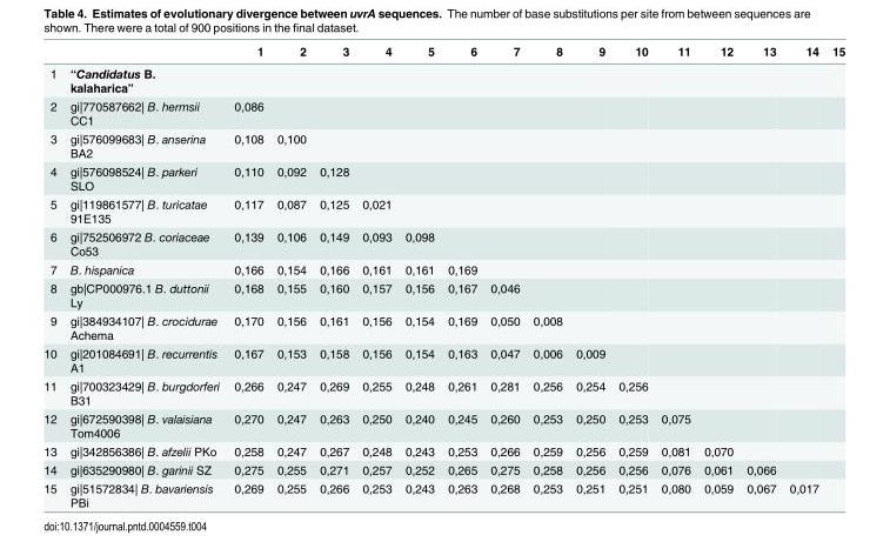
<table><thead><tr><td></td><td></td><td>1</td><td>2</td><td>3</td><td>4</td><td>5</td><td>6</td><td>7</td><td>8</td><td>9</td><td>10</td><td>11</td><td>12</td><td>13</td><td>14</td><td>15</td></tr></thead><tbody><tr><td>1</td><td>“Candidatus B. kalaharica”</td><td></td><td></td><td></td><td></td><td></td><td></td><td></td><td></td><td></td><td></td><td></td><td></td><td></td><td></td><td></td></tr><tr><td>2</td><td>gi|770587662| B. hermsii CC1</td><td>0,086</td><td></td><td></td><td></td><td></td><td></td><td></td><td></td><td></td><td></td><td></td><td></td><td></td><td></td><td></td></tr><tr><td>3</td><td>gi|576099683| B. anserina BA2</td><td>0,108</td><td>0,100</td><td></td><td></td><td></td><td></td><td></td><td></td><td></td><td></td><td></td><td></td><td></td><td></td><td></td></tr><tr><td>4</td><td>gi|576098524| B. parkeri SLO</td><td>0,110</td><td>0,092</td><td>0,128</td><td></td><td></td><td></td><td></td><td></td><td></td><td></td><td></td><td></td><td></td><td></td><td></td></tr><tr><td>5</td><td>gi|119861577| B. turicatae 91E135</td><td>0,117</td><td>0,087</td><td>0,125</td><td>0,021</td><td></td><td></td><td></td><td></td><td></td><td></td><td></td><td></td><td></td><td></td><td></td></tr><tr><td>6</td><td>gi|752506972 B. coriaceae Co53</td><td>0,139</td><td>0,106</td><td>0,149</td><td>0,093</td><td>0,098</td><td></td><td></td><td></td><td></td><td></td><td></td><td></td><td></td><td></td><td></td></tr><tr><td>7</td><td>B. hispanica</td><td>0,166</td><td>0,154</td><td>0,166</td><td>0,161</td><td>0,161</td><td>0,169</td><td></td><td></td><td></td><td></td><td></td><td></td><td></td><td></td><td></td></tr><tr><td>8</td><td>gb|CP000976.1 B. duttonii Ly</td><td>0,168</td><td>0,155</td><td>0,160</td><td>0,157</td><td>0,156</td><td>0,167</td><td>0,046</td><td></td><td></td><td></td><td></td><td></td><td></td><td></td><td></td></tr><tr><td>9</td><td>gi|384934107| B. crocidurae Achema</td><td>0,170</td><td>0,156</td><td>0,161</td><td>0,156</td><td>0,154</td><td>0,169</td><td>0,050</td><td>0,008</td><td></td><td></td><td></td><td></td><td></td><td></td><td></td></tr><tr><td>10</td><td>gi|201084691| B. recurrentis A1</td><td>0,167</td><td>0,153</td><td>0,158</td><td>0,156</td><td>0,154</td><td>0,163</td><td>0,047</td><td>0,006</td><td>0,009</td><td></td><td></td><td></td><td></td><td></td><td></td></tr><tr><td>11</td><td>gi|700323429| B. burgdorferi B31</td><td>0,266</td><td>0,247</td><td>0,269</td><td>0,255</td><td>0,248</td><td>0,261</td><td>0,281</td><td>0,256</td><td>0,254</td><td>0,256</td><td></td><td></td><td></td><td></td><td></td></tr><tr><td>12</td><td>gi|672590398| B. valaisiana Tom4006</td><td>0,270</td><td>0,247</td><td>0,263</td><td>0,250</td><td>0,240</td><td>0,245</td><td>0,260</td><td>0,253</td><td>0,250</td><td>0,253</td><td>0,075</td><td></td><td></td><td></td><td></td></tr><tr><td>13</td><td>gi|342856386| B. afzelii PKo</td><td>0,258</td><td>0,247</td><td>0,267</td><td>0,248</td><td>0,243</td><td>0,253</td><td>0,266</td><td>0,259</td><td>0,256</td><td>0,259</td><td>0,081</td><td>0,070</td><td></td><td></td><td></td></tr><tr><td>14</td><td>gi|635290980| B. garinii SZ</td><td>0,275</td><td>0,255</td><td>0,271</td><td>0,257</td><td>0,252</td><td>0,265</td><td>0,275</td><td>0,258</td><td>0,256</td><td>0,256</td><td>0,076</td><td>0,061</td><td>0,066</td><td></td><td></td></tr><tr><td>15</td><td>gi|51572834| B. bavariensis PBi</td><td>0,269</td><td>0,255</td><td>0,266</td><td>0,253</td><td>0,243</td><td>0,263</td><td>0,268</td><td>0,253</td><td>0,251</td><td>0,251</td><td>0,080</td><td>0,059</td><td>0,067</td><td>0,017</td><td></td></tr></tbody></table>